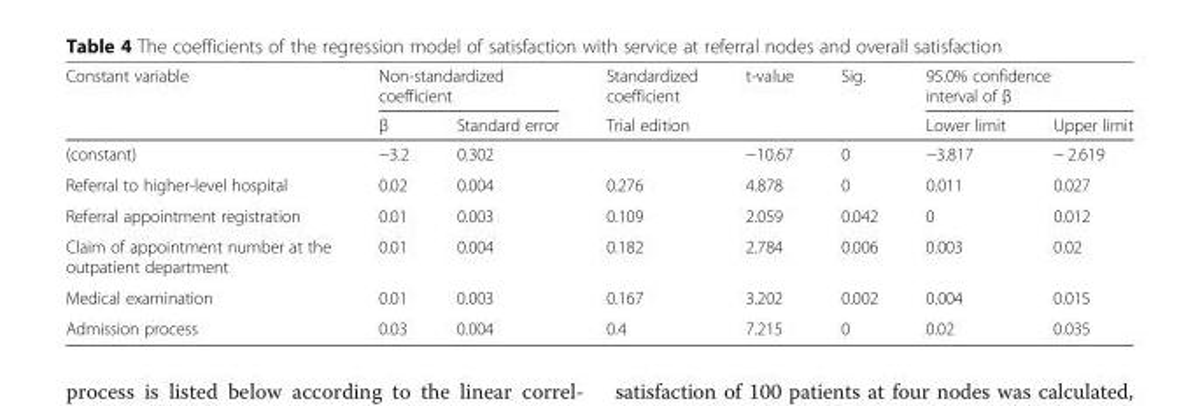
<table><thead><tr><td rowspan="2">Constant variable</td><td colspan="2">Non-standardized coefficient</td><td rowspan="2">Standardized coefficient Trial edition</td><td rowspan="2">t-value</td><td rowspan="2">Sig.</td><td colspan="2">95.0% confidence interval of β</td></tr><tr><td>β</td><td>Standard error</td><td>Lower limit</td><td>Upper limit</td></tr></thead><tbody><tr><td>(constant)</td><td>−3.2</td><td>0.302</td><td></td><td>−10.67</td><td>0</td><td>−3.817</td><td>− 2.619</td></tr><tr><td>Referral to higher-level hospital</td><td>0.02</td><td>0.004</td><td>0.276</td><td>4.878</td><td>0</td><td>0.011</td><td>0.027</td></tr><tr><td>Referral appointment registration</td><td>0.01</td><td>0.003</td><td>0.109</td><td>2.059</td><td>0.042</td><td>0</td><td>0.012</td></tr><tr><td>Claim of appointment number at the outpatient department</td><td>0.01</td><td>0.004</td><td>0.182</td><td>2.784</td><td>0.006</td><td>0.003</td><td>0.02</td></tr><tr><td>Medical examination</td><td>0.01</td><td>0.003</td><td>0.167</td><td>3.202</td><td>0.002</td><td>0.004</td><td>0.015</td></tr><tr><td>Admission process</td><td>0.03</td><td>0.004</td><td>0.4</td><td>7.215</td><td>0</td><td>0.02</td><td>0.035</td></tr></tbody></table>